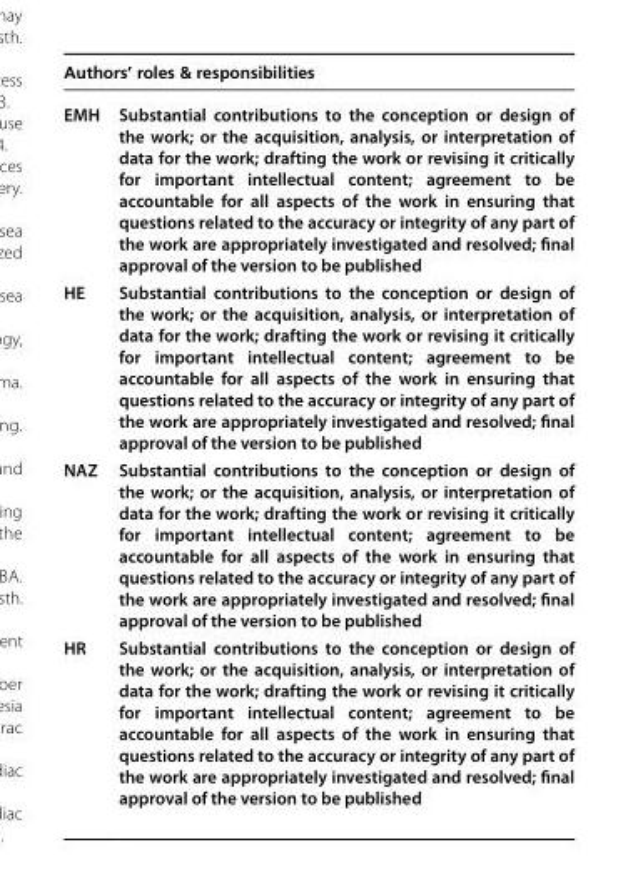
<table><thead><tr><td colspan="2">Authors’ roles &amp; responsibilities</td></tr><tr><td>EMH</td><td>Substantial contributions to the conception or design of the work; or the acquisition, analysis, or interpretation of data for the work; drafting the work or revising it critically for important intellectual content; agreement to be accountable for all aspects of the work in ensuring that questions related to the accuracy or integrity of any part of the work are appropriately investigated and resolved; final approval of the version to be published</td></tr></thead><tbody><tr><td>HE</td><td>Substantial contributions to the conception or design of the work; or the acquisition, analysis, or interpretation of data for the work; drafting the work or revising it critically for important intellectual content; agreement to be accountable for all aspects of the work in ensuring that questions related to the accuracy or integrity of any part of the work are appropriately investigated and resolved; final approval of the version to be published</td></tr><tr><td>NAZ</td><td>Substantial contributions to the conception or design of the work; or the acquisition, analysis, or interpretation of data for the work; drafting the work or revising it critically for important intellectual content; agreement to be accountable for all aspects of the work in ensuring that questions related to the accuracy or integrity of any part of the work are appropriately investigated and resolved; final approval of the version to be published</td></tr><tr><td>HR</td><td>Substantial contributions to the conception or design of the work; or the acquisition, analysis, or interpretation of data for the work; drafting the work or revising it critically for important intellectual content; agreement to be accountable for all aspects of the work in ensuring that questions related to the accuracy or integrity of any part of the work are appropriately investigated and resolved; final approval of the version to be published</td></tr></tbody></table>